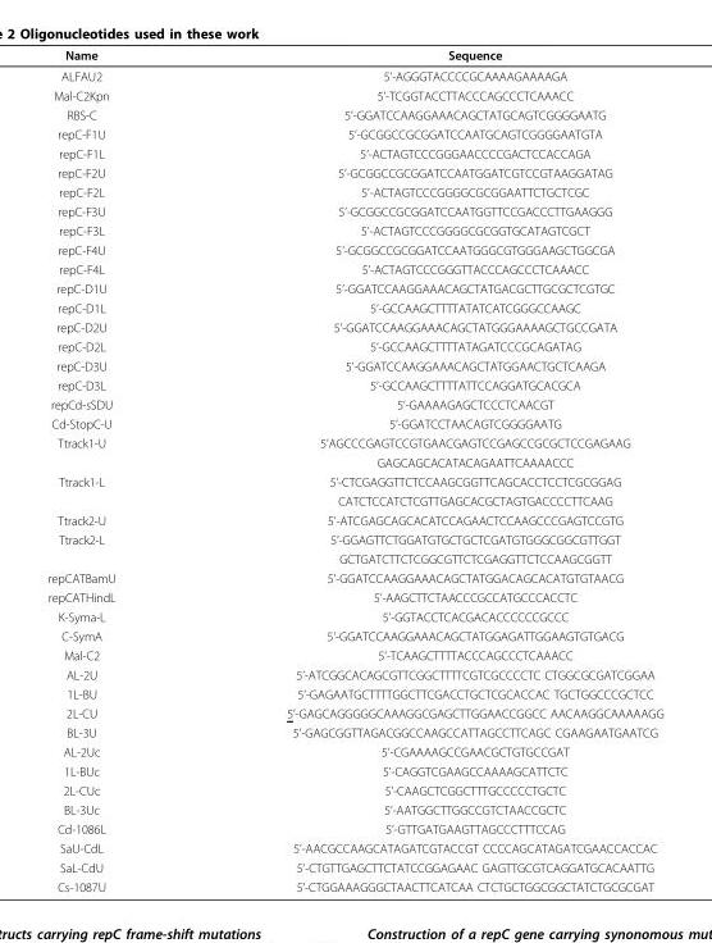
<table><thead><tr><td>Name</td><td>Sequence</td></tr></thead><tbody><tr><td>ALFAU2</td><td>5’-AGGGTACCCCGCAAAAGAAAAGA</td></tr><tr><td>Mal-C2Kpn</td><td>5’-TCGGTACCTTACCCAGCCCTCAAACC</td></tr><tr><td>RBS-C</td><td>5’-GGATCCAAGGAAACAGCTATGCAGTCGGGGAATG</td></tr><tr><td>repC-F1U</td><td>5’-GCGGCCGCGGATCCAATGCAGTCGGGGAATGTA</td></tr><tr><td>repC-F1L</td><td>5’-ACTAGTCCCGGGAACCCCGACTCCACCAGA</td></tr><tr><td>repC-F2U</td><td>5’-GCGGCCGCGGATCCAATGGATCGTCCGTAAGGATAG</td></tr><tr><td>repC-F2L</td><td>5’-ACTAGTCCCGGGGCGCGGAATTCTGCTCGC</td></tr><tr><td>repC-F3U</td><td>5’-GCGGCCGCGGATCCAATGGTTCCGACCCTTGAAGGG</td></tr><tr><td>repC-F3L</td><td>5’-ACTAGTCCCGGGGCGCGGTGCATAGTCGCT</td></tr><tr><td>repC-F4U</td><td>5’-GCGGCCGCGGATCCAATGGGCGTGGGAAGCTGGCGA</td></tr><tr><td>repC-F4L</td><td>5’-ACTAGTCCCGGGTTACCCAGCCCTCAAACC</td></tr><tr><td>repC-D1U</td><td>5’-GGATCCAAGGAAACAGCTATGACGCTTGCGCTCGTGC</td></tr><tr><td>repC-D1L</td><td>5’-GCCAAGCTTTTATATCATCGGGCCAAGC</td></tr><tr><td>repC-D2U</td><td>5’-GGATCCAAGGAAACAGCTATGGGAAAAGCTGCCGATA</td></tr><tr><td>repC-D2L</td><td>5’-GCCAAGCTTTTATAGATCCCGCAGATAG</td></tr><tr><td>repC-D3U</td><td>5’-GGATCCAAGGAAACAGCTATGGAACTGCTCAAGA</td></tr><tr><td>repC-D3L</td><td>5’-GCCAAGCTTTTATTCCAGGATGCACGCA</td></tr><tr><td>repCd-sSDU</td><td>5’-GAAAAGAGCTCCCTCAACGT</td></tr><tr><td>Cd-StopC-U</td><td>5’-GGATCCTAACAGTCGGGGAATG</td></tr><tr><td rowspan="2">Ttrack1-U</td><td>5’AGCCCGAGTCCGTGAACGAGTCCGAGCCGCGCTCCGAGAAG</td></tr><tr><td>GAGCAGCACATACAGAATTCAAAACCC</td></tr><tr><td rowspan="2">Ttrack1-L</td><td>5’-CTCGAGGTTCTCCAAGCGGTTCAGCACCTCCTCGCGGAG</td></tr><tr><td>CATCTCCATCTCGTTGAGCACGCTAGTGACCCCTTCAAG</td></tr><tr><td>Ttrack2-U</td><td>5’-ATCGAGCAGCACATCCAGAACTCCAAGCCCGAGTCCGTG</td></tr><tr><td rowspan="2">Ttrack2-L</td><td>5’-GGAGTTCTGGATGTGCTGCTCGATGTGGGCGGCGTTGGT</td></tr><tr><td>GCTGATCTTCTCGGCGTTCTCGAGGTTCTCCAAGCGGTT</td></tr><tr><td>repCATBamU</td><td>5’-GGATCCAAGGAAACAGCTATGGACAGCACATGTGTAACG</td></tr><tr><td>repCATHindL</td><td>5’-AAGCTTCTAACCCGCCATGCCCACCTC</td></tr><tr><td>K-Syma-L</td><td>5’-GGTACCTCACGACACCCCCCGCCC</td></tr><tr><td>C-SymA</td><td>5’-GGATCCAAGGAAACAGCTATGGAGATTGGAAGTGTGACG</td></tr><tr><td>Mal-C2</td><td>5’-TCAAGCTTTTACCCAGCCCTCAAACC</td></tr><tr><td>AL-2U</td><td>5’-ATCGGCACAGCGTTCGGCTTTTCGTCGCCCCTC CTGGCGCGATCGGAA</td></tr><tr><td>1L-BU</td><td>5’-GAGAATGCTTTTGGCTTCGACCTGCTCGCACCAC TGCTGGCCCGCTCC</td></tr><tr><td>2L-CU</td><td>5’-GAGCAGGGGGCAAAGGCGAGCTTGGAACCGGCC AACAAGGCAAAAAGG</td></tr><tr><td>BL-3U</td><td>5’-GAGCGGTTAGACGGCCAAGCCATTAGCCTTCAGC CGAAGAATGAATCG</td></tr><tr><td>AL-2Uc</td><td>5’-CGAAAAGCCGAACGCTGTGCCGAT</td></tr><tr><td>1L-BUc</td><td>5’-CAGGTCGAAGCCAAAAGCATTCTC</td></tr><tr><td>2L-CUc</td><td>5’-CAAGCTCGGCTTTGCCCCCTGCTC</td></tr><tr><td>BL-3Uc</td><td>5’-AATGGCTTGGCCGTCTAACCGCTC</td></tr><tr><td>Cd-1086L</td><td>5’-GTTGATGAAGTTAGCCCTTTCCAG</td></tr><tr><td>SaU-CdL</td><td>5’-AACGCCAAGCATAGATCGTACCGT CCCCAGCATAGATCGAACCACCAC</td></tr><tr><td>SaL-CdU</td><td>5’-CTGTTGAGCTTCTATCCGGAGAAC GAGTTGCGTCAGGATGCACAATTG</td></tr><tr><td>Cs-1087U</td><td>5’-CTGGAAAGGGCTAACTTCATCAA CTCTGCTGGCGGCTATCTGCGCGAT</td></tr></tbody></table>